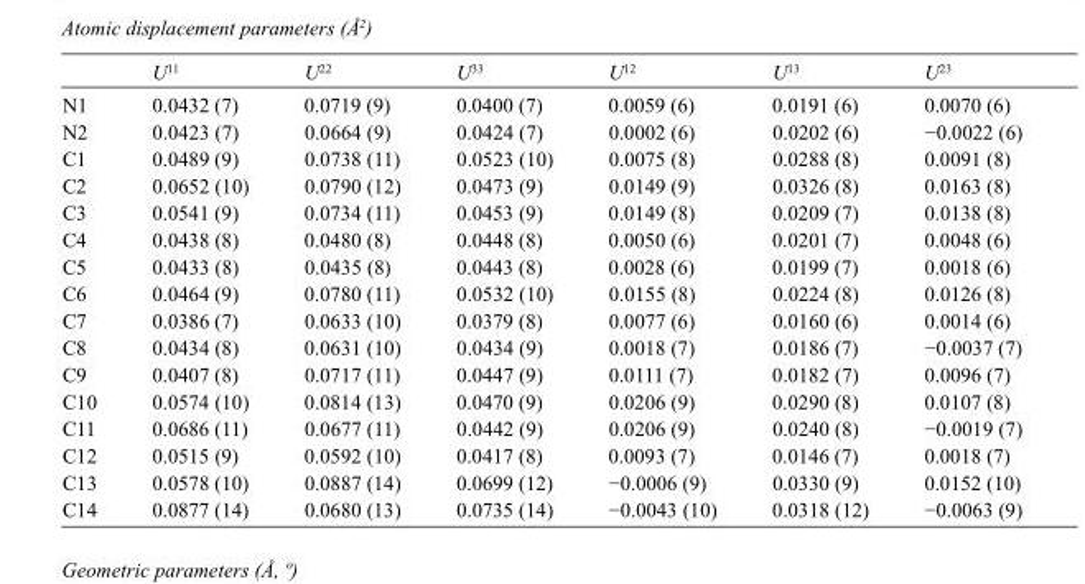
<table><thead><tr><td></td><td>U<sup>11</sup></td><td>U<sup>22</sup></td><td>U<sup>33</sup></td><td>U<sup>12</sup></td><td>U<sup>13</sup></td><td>U<sup>23</sup></td></tr></thead><tbody><tr><td>N1</td><td>0.0432 (7)</td><td>0.0719 (9)</td><td>0.0400 (7)</td><td>0.0059 (6)</td><td>0.0191 (6)</td><td>0.0070 (6)</td></tr><tr><td>N2</td><td>0.0423 (7)</td><td>0.0664 (9)</td><td>0.0424 (7)</td><td>0.0002 (6)</td><td>0.0202 (6)</td><td>−0.0022 (6)</td></tr><tr><td>C1</td><td>0.0489 (9)</td><td>0.0738 (11)</td><td>0.0523 (10)</td><td>0.0075 (8)</td><td>0.0288 (8)</td><td>0.0091 (8)</td></tr><tr><td>C2</td><td>0.0652 (10)</td><td>0.0790 (12)</td><td>0.0473 (9)</td><td>0.0149 (9)</td><td>0.0326 (8)</td><td>0.0163 (8)</td></tr><tr><td>C3</td><td>0.0541 (9)</td><td>0.0734 (11)</td><td>0.0453 (9)</td><td>0.0149 (8)</td><td>0.0209 (7)</td><td>0.0138 (8)</td></tr><tr><td>C4</td><td>0.0438 (8)</td><td>0.0480 (8)</td><td>0.0448 (8)</td><td>0.0050 (6)</td><td>0.0201 (7)</td><td>0.0048 (6)</td></tr><tr><td>C5</td><td>0.0433 (8)</td><td>0.0435 (8)</td><td>0.0443 (8)</td><td>0.0028 (6)</td><td>0.0199 (7)</td><td>0.0018 (6)</td></tr><tr><td>C6</td><td>0.0464 (9)</td><td>0.0780 (11)</td><td>0.0532 (10)</td><td>0.0155 (8)</td><td>0.0224 (8)</td><td>0.0126 (8)</td></tr><tr><td>C7</td><td>0.0386 (7)</td><td>0.0633 (10)</td><td>0.0379 (8)</td><td>0.0077 (6)</td><td>0.0160 (6)</td><td>0.0014 (6)</td></tr><tr><td>C8</td><td>0.0434 (8)</td><td>0.0631 (10)</td><td>0.0434 (9)</td><td>0.0018 (7)</td><td>0.0186 (7)</td><td>−0.0037 (7)</td></tr><tr><td>C9</td><td>0.0407 (8)</td><td>0.0717 (11)</td><td>0.0447 (9)</td><td>0.0111 (7)</td><td>0.0182 (7)</td><td>0.0096 (7)</td></tr><tr><td>C10</td><td>0.0574 (10)</td><td>0.0814 (13)</td><td>0.0470 (9)</td><td>0.0206 (9)</td><td>0.0290 (8)</td><td>0.0107 (8)</td></tr><tr><td>C11</td><td>0.0686 (11)</td><td>0.0677 (11)</td><td>0.0442 (9)</td><td>0.0206 (9)</td><td>0.0240 (8)</td><td>−0.0019 (7)</td></tr><tr><td>C12</td><td>0.0515 (9)</td><td>0.0592 (10)</td><td>0.0417 (8)</td><td>0.0093 (7)</td><td>0.0146 (7)</td><td>0.0018 (7)</td></tr><tr><td>C13</td><td>0.0578 (10)</td><td>0.0887 (14)</td><td>0.0699 (12)</td><td>−0.0006 (9)</td><td>0.0330 (9)</td><td>0.0152 (10)</td></tr><tr><td>C14</td><td>0.0877 (14)</td><td>0.0680 (13)</td><td>0.0735 (14)</td><td>−0.0043 (10)</td><td>0.0318 (12)</td><td>−0.0063 (9)</td></tr></tbody></table>